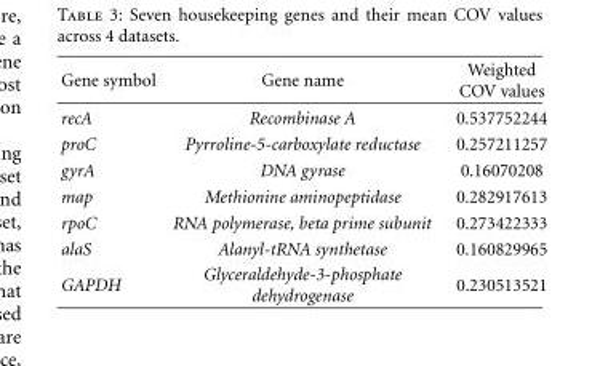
<table><thead><tr><td>Gene symbol</td><td>Gene name</td><td>Weighted COV values</td></tr></thead><tbody><tr><td>recA</td><td>Recombinase A</td><td>0.537752244</td></tr><tr><td>proC</td><td>Pyrroline-5-carboxylate reductase</td><td>0.257211257</td></tr><tr><td>gyrA</td><td>DNA gyrase</td><td>0.16070208</td></tr><tr><td>map</td><td>Methionine aminopeptidase</td><td>0.282917613</td></tr><tr><td>rpoC</td><td>RNA polymerase, beta prime subunit</td><td>0.273422333</td></tr><tr><td>alaS</td><td>Alanyl-tRNA synthetase</td><td>0.160829965</td></tr><tr><td>GAPDH</td><td>Glyceraldehyde-3-phosphate dehydrogenase</td><td>0.230513521</td></tr></tbody></table>